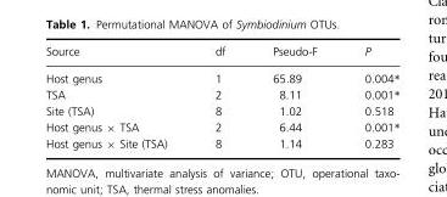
<table><thead><tr><td>Source</td><td>df</td><td>Pseudo-F</td><td>P</td></tr></thead><tbody><tr><td>Host genus</td><td>1</td><td>65.89</td><td>0.004*</td></tr><tr><td>TSA</td><td>2</td><td>8.11</td><td>0.001*</td></tr><tr><td>Site (TSA)</td><td>8</td><td>1.02</td><td>0.518</td></tr><tr><td>Host genus × TSA</td><td>2</td><td>6.44</td><td>0.001*</td></tr><tr><td>Host genus × Site (TSA)</td><td>8</td><td>1.14</td><td>0.283</td></tr></tbody></table>